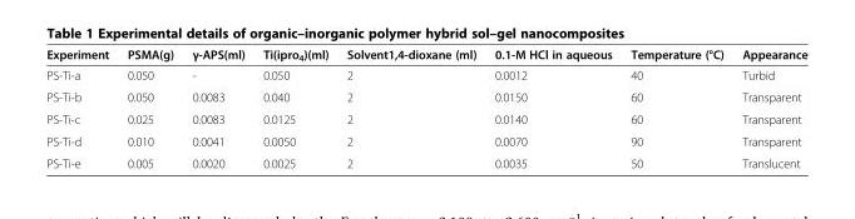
<table><thead><tr><td>Experiment</td><td>PSMA(g)</td><td>γ-APS(ml)</td><td>Ti(ipro<sub>4</sub>)(ml)</td><td>Solvent1,4-dioxane (ml)</td><td>0.1-M HCl in aqueous</td><td>Temperature (°C)</td><td>Appearance</td></tr></thead><tbody><tr><td>PS-Ti-a</td><td>0.050</td><td>-</td><td>0.050</td><td>2</td><td>0.0012</td><td>40</td><td>Turbid</td></tr><tr><td>PS-Ti-b</td><td>0.050</td><td>0.0083</td><td>0.040</td><td>2</td><td>0.0150</td><td>60</td><td>Transparent</td></tr><tr><td>PS-Ti-c</td><td>0.025</td><td>0.0083</td><td>0.0125</td><td>2</td><td>0.0140</td><td>60</td><td>Transparent</td></tr><tr><td>PS-Ti-d</td><td>0.010</td><td>0.0041</td><td>0.0050</td><td>2</td><td>0.0070</td><td>90</td><td>Transparent</td></tr><tr><td>PS-Ti-e</td><td>0.005</td><td>0.0020</td><td>0.0025</td><td>2</td><td>0.0035</td><td>50</td><td>Translucent</td></tr></tbody></table>